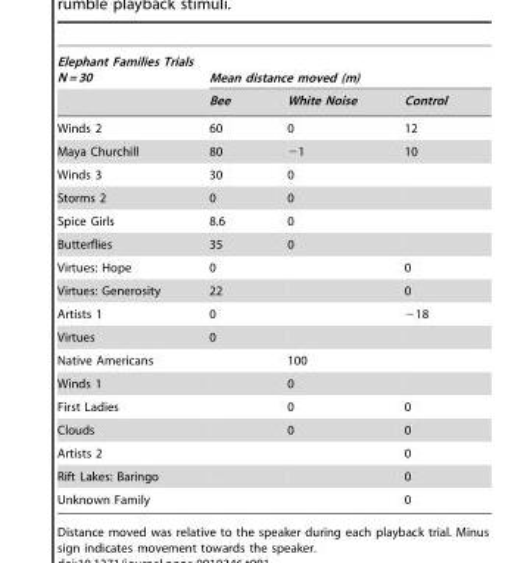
<table><thead><tr><td rowspan="2">Elephant Families Trials N = 30</td><td colspan="3">Mean distance moved (m)</td></tr><tr><td>Bee</td><td>White Noise</td><td>Control</td></tr></thead><tbody><tr><td>Winds 2</td><td>60</td><td>0</td><td>12</td></tr><tr><td>Maya Churchill</td><td>80</td><td>−1</td><td>10</td></tr><tr><td>Winds 3</td><td>30</td><td>0</td><td></td></tr><tr><td>Storms 2</td><td>0</td><td>0</td><td></td></tr><tr><td>Spice Girls</td><td>8.6</td><td>0</td><td></td></tr><tr><td>Butterflies</td><td>35</td><td>0</td><td></td></tr><tr><td>Virtues: Hope</td><td>0</td><td></td><td>0</td></tr><tr><td>Virtues: Generosity</td><td>22</td><td></td><td>0</td></tr><tr><td>Artists 1</td><td>0</td><td></td><td>−18</td></tr><tr><td>Virtues</td><td>0</td><td></td><td></td></tr><tr><td>Native Americans</td><td></td><td>100</td><td></td></tr><tr><td>Winds 1</td><td></td><td>0</td><td></td></tr><tr><td>First Ladies</td><td></td><td>0</td><td>0</td></tr><tr><td>Clouds</td><td></td><td>0</td><td>0</td></tr><tr><td>Artists 2</td><td></td><td></td><td>0</td></tr><tr><td>Rift Lakes: Baringo</td><td></td><td></td><td>0</td></tr><tr><td>Unknown Family</td><td></td><td></td><td>0</td></tr></tbody></table>